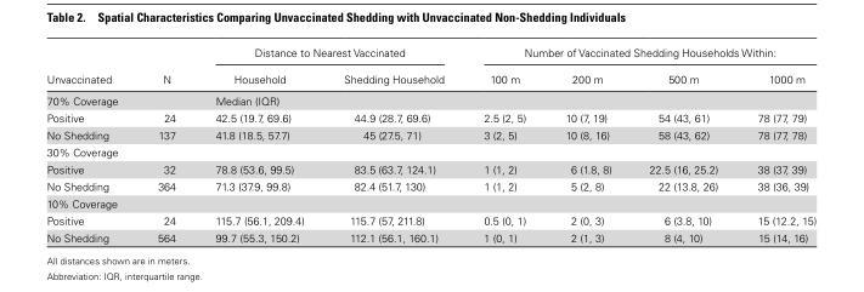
<table><thead><tr><td rowspan="2">Unvaccinated</td><td rowspan="2">N</td><td colspan="2">Distance to Nearest Vaccinated</td><td colspan="4">Number of Vaccinated Shedding Households Within:</td></tr><tr><td>Household</td><td>Shedding Household</td><td>100 m</td><td>200 m</td><td>500 m</td><td>1000 m</td></tr></thead><tbody><tr><td>70% Coverage</td><td></td><td>Median (IQR)</td><td></td><td></td><td></td><td></td><td></td></tr><tr><td>Positive</td><td>24</td><td>42.5 (19.7, 69.6)</td><td>44.9 (28.7, 69.6)</td><td>2.5 (2, 5)</td><td>10 (7, 19)</td><td>54 (43, 61)</td><td>78 (77, 79)</td></tr><tr><td>No Shedding</td><td>137</td><td>41.8 (18.5, 57.7)</td><td>45 (27.5, 71)</td><td>3 (2, 5)</td><td>10 (8, 16)</td><td>58 (43, 62)</td><td>78 (77, 78)</td></tr><tr><td colspan="8">30% Coverage</td></tr><tr><td>Positive</td><td>32</td><td>78.8 (53.6, 99.5)</td><td>83.5 (63.7, 124.1)</td><td>1 (1, 2)</td><td>6 (1.8, 8)</td><td>22.5 (16, 25.2)</td><td>38 (37, 39)</td></tr><tr><td>No Shedding</td><td>364</td><td>71.3 (37.9, 99.8)</td><td>82.4 (51.7, 130)</td><td>1 (1, 2)</td><td>5 (2, 8)</td><td>22 (13.8, 26)</td><td>38 (36, 39)</td></tr><tr><td colspan="8">10% Coverage</td></tr><tr><td>Positive</td><td>24</td><td>115.7 (56.1, 209.4)</td><td>115.7 (57, 211.8)</td><td>0.5 (0, 1)</td><td>2 (0, 3)</td><td>6 (3.8, 10)</td><td>15 (12.2, 15)</td></tr><tr><td>No Shedding</td><td>564</td><td>99.7 (55.3, 150.2)</td><td>112.1 (56.1, 160.1)</td><td>1 (0, 1)</td><td>2 (1, 3)</td><td>8 (4, 10)</td><td>15 (14, 16)</td></tr></tbody></table>